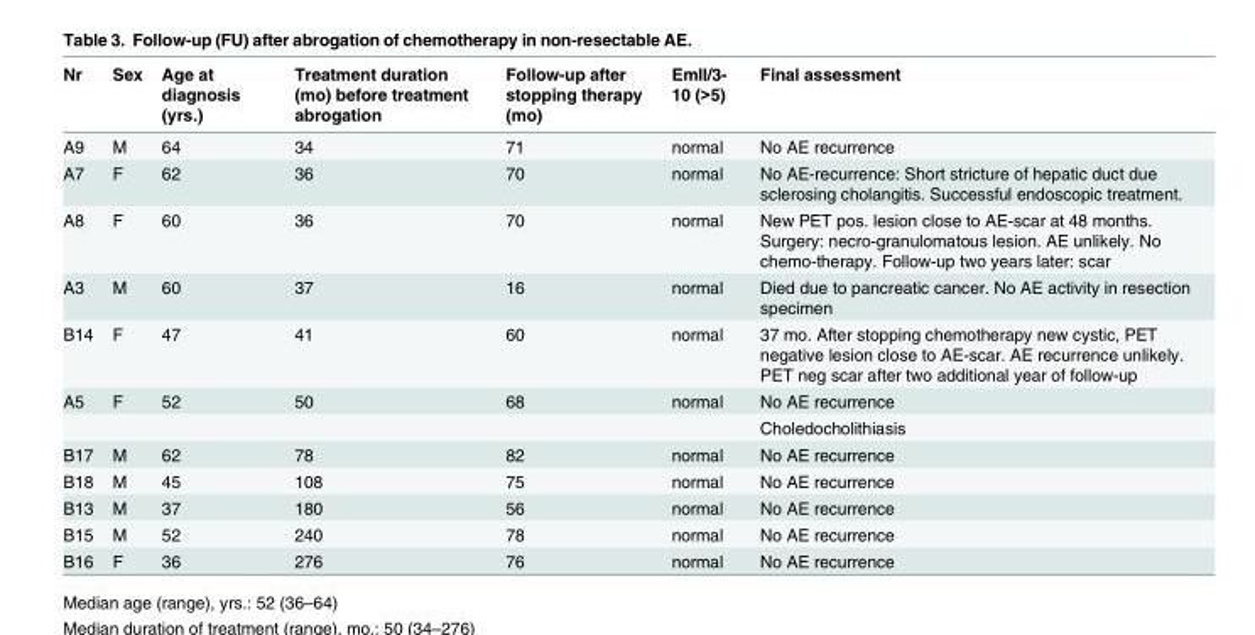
<table><thead><tr><td>Nr</td><td>Sex</td><td>Age at diagnosis (yrs.)</td><td>Treatment duration (mo) before treatment abrogation</td><td>Follow-up after stopping therapy (mo)</td><td>EmII/3- 10 (&gt;5)</td><td>Final assessment</td></tr></thead><tbody><tr><td>A9</td><td>M</td><td>64</td><td>34</td><td>71</td><td>normal</td><td>No AE recurrence</td></tr><tr><td>A7</td><td>F</td><td>62</td><td>36</td><td>70</td><td>normal</td><td>No AE-recurrence: Short stricture of hepatic duct due sclerosing cholangitis. Successful endoscopic treatment.</td></tr><tr><td>A8</td><td>F</td><td>60</td><td>36</td><td>70</td><td>normal</td><td>New PET pos. lesion close to AE-scar at 48 months. Surgery: necro-granulomatous lesion. AE unlikely. No chemo-therapy. Follow-up two years later: scar</td></tr><tr><td>A3</td><td>M</td><td>60</td><td>37</td><td>16</td><td>normal</td><td>Died due to pancreatic cancer. No AE activity in resection specimen</td></tr><tr><td>B14</td><td>F</td><td>47</td><td>41</td><td>60</td><td>normal</td><td>37 mo. After stopping chemotherapy new cystic, PET negative lesion close to AE-scar. AE recurrence unlikely. PET neg scar after two additional year of follow-up</td></tr><tr><td rowspan="2">A5</td><td>F</td><td>52</td><td>50</td><td>68</td><td>normal</td><td>No AE recurrence</td></tr><tr><td></td><td></td><td></td><td></td><td></td><td>Choledocholithiasis</td></tr><tr><td>B17</td><td>M</td><td>62</td><td>78</td><td>82</td><td>normal</td><td>No AE recurrence</td></tr><tr><td>B18</td><td>M</td><td>45</td><td>108</td><td>75</td><td>normal</td><td>No AE recurrence</td></tr><tr><td>B13</td><td>M</td><td>37</td><td>180</td><td>56</td><td>normal</td><td>No AE recurrence</td></tr><tr><td>B15</td><td>M</td><td>52</td><td>240</td><td>78</td><td>normal</td><td>No AE recurrence</td></tr><tr><td>B16</td><td>F</td><td>36</td><td>276</td><td>76</td><td>normal</td><td>No AE recurrence</td></tr></tbody></table>